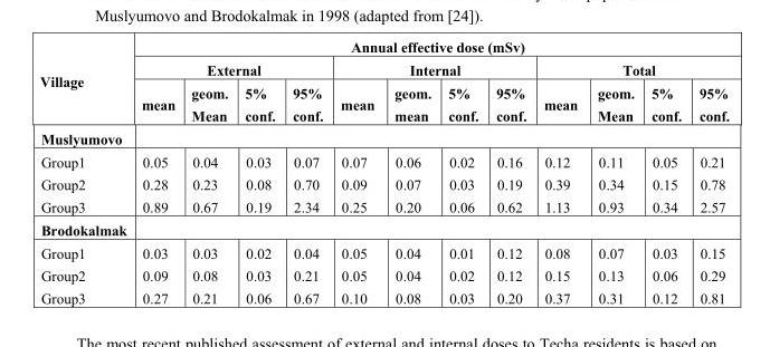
<table><thead><tr><td rowspan="3">Village</td><td colspan="12">Annual effective dose (mSv)</td></tr><tr><td colspan="4">External</td><td colspan="4">Internal</td><td colspan="4">Total</td></tr><tr><td>mean</td><td>geom. Mean</td><td>5% conf.</td><td>95% conf.</td><td>mean</td><td>geom. mean</td><td>5% conf.</td><td>95% conf.</td><td>mean</td><td>geom. Mean</td><td>5% conf.</td><td>95% conf.</td></tr></thead><tbody><tr><td colspan="13">Muslyumovo</td></tr><tr><td>Group1</td><td>0.05</td><td>0.04</td><td>0.03</td><td>0.07</td><td>0.07</td><td>0.06</td><td>0.02</td><td>0.16</td><td>0.12</td><td>0.11</td><td>0.05</td><td>0.21</td></tr><tr><td>Group2</td><td>0.28</td><td>0.23</td><td>0.08</td><td>0.70</td><td>0.09</td><td>0.07</td><td>0.03</td><td>0.19</td><td>0.39</td><td>0.34</td><td>0.15</td><td>0.78</td></tr><tr><td>Group3</td><td>0.89</td><td>0.67</td><td>0.19</td><td>2.34</td><td>0.25</td><td>0.20</td><td>0.06</td><td>0.62</td><td>1.13</td><td>0.93</td><td>0.34</td><td>2.57</td></tr><tr><td colspan="13">Brodokalmak</td></tr><tr><td>Group1</td><td>0.03</td><td>0.03</td><td>0.02</td><td>0.04</td><td>0.05</td><td>0.04</td><td>0.01</td><td>0.12</td><td>0.08</td><td>0.07</td><td>0.03</td><td>0.15</td></tr><tr><td>Group2</td><td>0.09</td><td>0.08</td><td>0.03</td><td>0.21</td><td>0.05</td><td>0.04</td><td>0.02</td><td>0.12</td><td>0.15</td><td>0.13</td><td>0.06</td><td>0.29</td></tr><tr><td>Group3</td><td>0.27</td><td>0.21</td><td>0.06</td><td>0.67</td><td>0.10</td><td>0.08</td><td>0.03</td><td>0.20</td><td>0.37</td><td>0.31</td><td>0.12</td><td>0.81</td></tr></tbody></table>